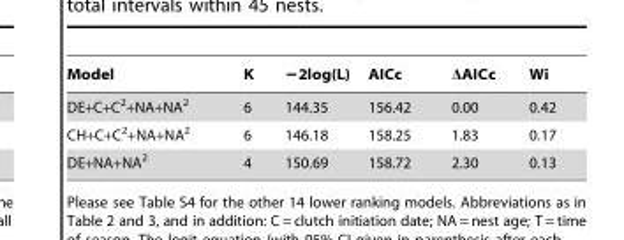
<table><thead><tr><td>Model</td><td>K</td><td>−2log(L)</td><td>AICc</td><td>ΔAICc</td><td>Wi</td></tr></thead><tbody><tr><td>DE+C+C<sup>2</sup>+NA+NA<sup>2</sup></td><td>6</td><td>144.35</td><td>156.42</td><td>0.00</td><td>0.42</td></tr><tr><td>CH+C+C<sup>2</sup>+NA+NA<sup>2</sup></td><td>6</td><td>146.18</td><td>158.25</td><td>1.83</td><td>0.17</td></tr><tr><td>DE+NA+NA<sup>2</sup></td><td>4</td><td>150.69</td><td>158.72</td><td>2.30</td><td>0.13</td></tr></tbody></table>